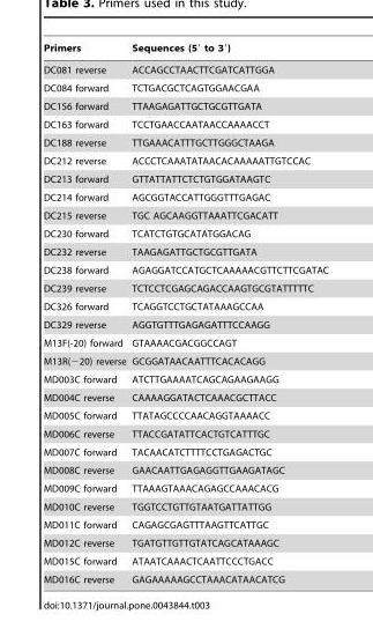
<table><thead><tr><td>Primers</td><td>Sequences (5′ to 3′)</td></tr></thead><tbody><tr><td>DC081 reverse</td><td>ACCAGCCTAACTTCGATCATTGGA</td></tr><tr><td>DC084 forward</td><td>TCTGACGCTCAGTGGAACGAA</td></tr><tr><td>DC156 forward</td><td>TTAAGAGATTGCTGCGTTGATA</td></tr><tr><td>DC163 forward</td><td>TCCTGAACCAATAACCAAAACCT</td></tr><tr><td>DC188 reverse</td><td>TTGAAACATTTGCTTGGGCTAAGA</td></tr><tr><td>DC212 reverse</td><td>ACCCTCAAATATAACACAAAAATTGTCCAC</td></tr><tr><td>DC213 forward</td><td>GTTATTATTCTCTGTGGATAAGTC</td></tr><tr><td>DC214 forward</td><td>AGCGGTACCATTGGGTTTGAGAC</td></tr><tr><td>DC215 reverse</td><td>TGC AGCAAGGTTAAATTCGACATT</td></tr><tr><td>DC230 forward</td><td>TCATCTGTGCATATGGACAG</td></tr><tr><td>DC232 reverse</td><td>TAAGAGATTGCTGCGTTGATA</td></tr><tr><td>DC238 forward</td><td>AGAGGATCCATGCTCAAAAACGTTCTTCGATAC</td></tr><tr><td>DC239 reverse</td><td>TCTCCTCGAGCAGACCAAGTGCGTATTTTTC</td></tr><tr><td>DC326 forward</td><td>TCAGGTCCTGCTATAAAGCCAA</td></tr><tr><td>DC329 reverse</td><td>AGGTGTTTGAGAGATTTCCAAGG</td></tr><tr><td>M13F(-20) forward</td><td>GTAAAACGACGGCCAGT</td></tr><tr><td>M13R(−20) reverse</td><td>GCGGATAACAATTTCACACAGG</td></tr><tr><td>MD003C forward</td><td>ATCTTGAAAATCAGCAGAAGAAGG</td></tr><tr><td>MD004C reverse</td><td>CAAAAGGATACTCAAACGCTTACC</td></tr><tr><td>MD005C forward</td><td>TTATAGCCCCAACAGGTAAAACC</td></tr><tr><td>MD006C reverse</td><td>TTACCGATATTCACTGTCATTTGC</td></tr><tr><td>MD007C forward</td><td>TACAACATCTTTTCCTGAGACTGC</td></tr><tr><td>MD008C reverse</td><td>GAACAATTGAGAGGTTGAAGATAGC</td></tr><tr><td>MD009C forward</td><td>TTAAAGTAAACAGAGCCAAACACG</td></tr><tr><td>MD010C reverse</td><td>TGGTCCTGTTGTAATGATTATTGG</td></tr><tr><td>MD011C forward</td><td>CAGAGCGAGTTTAAGTTCATTGC</td></tr><tr><td>MD012C reverse</td><td>TGATGTTGTTGTATCAGCATAAAGC</td></tr><tr><td>MD015C forward</td><td>ATAATCAAACTCAATTCCCTGACC</td></tr><tr><td>MD016C reverse</td><td>GAGAAAAAGCCTAAACATAACATCG</td></tr></tbody></table>